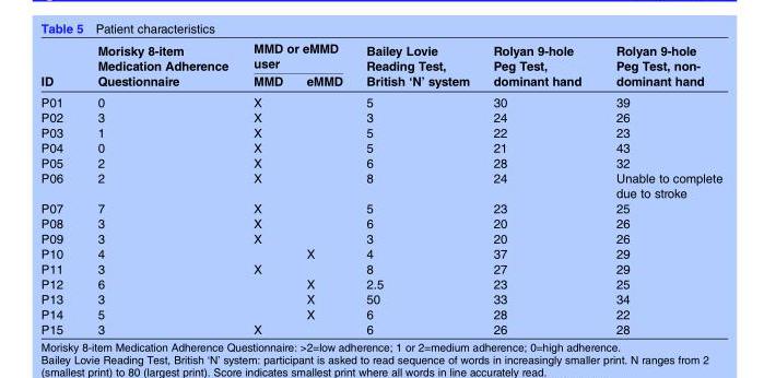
<table><thead><tr><td rowspan="2">ID</td><td rowspan="2">Morisky 8-item Medication Adherence Questionnaire</td><td colspan="2">MMD or eMMD user</td><td rowspan="2">Bailey Lovie Reading Test, British ‘N’ system</td><td rowspan="2">Rolyan 9-hole Peg Test, dominant hand</td><td rowspan="2">Rolyan 9-hole Peg Test, non- dominant hand</td></tr><tr><td>MMD</td><td>eMMD</td></tr></thead><tbody><tr><td>P01</td><td>0</td><td>X</td><td></td><td>5</td><td>30</td><td>39</td></tr><tr><td>P02</td><td>3</td><td>X</td><td></td><td>3</td><td>24</td><td>26</td></tr><tr><td>P03</td><td>1</td><td>X</td><td></td><td>5</td><td>22</td><td>23</td></tr><tr><td>P04</td><td>0</td><td>X</td><td></td><td>5</td><td>21</td><td>43</td></tr><tr><td>P05</td><td>2</td><td>X</td><td></td><td>6</td><td>28</td><td>32</td></tr><tr><td>P06</td><td>2</td><td>X</td><td></td><td>8</td><td>24</td><td>Unable to complete due to stroke</td></tr><tr><td>P07</td><td>7</td><td>X</td><td></td><td>5</td><td>23</td><td>25</td></tr><tr><td>P08</td><td>3</td><td>X</td><td></td><td>6</td><td>20</td><td>26</td></tr><tr><td>P09</td><td>3</td><td>X</td><td></td><td>3</td><td>20</td><td>26</td></tr><tr><td>P10</td><td>4</td><td></td><td>X</td><td>4</td><td>37</td><td>29</td></tr><tr><td>P11</td><td>3</td><td>X</td><td></td><td>8</td><td>27</td><td>29</td></tr><tr><td>P12</td><td>6</td><td></td><td>X</td><td>2.5</td><td>23</td><td>25</td></tr><tr><td>P13</td><td>3</td><td></td><td>X</td><td>50</td><td>33</td><td>34</td></tr><tr><td>P14</td><td>5</td><td></td><td>X</td><td>6</td><td>28</td><td>22</td></tr><tr><td>P15</td><td>3</td><td>X</td><td></td><td>6</td><td>26</td><td>28</td></tr></tbody></table>